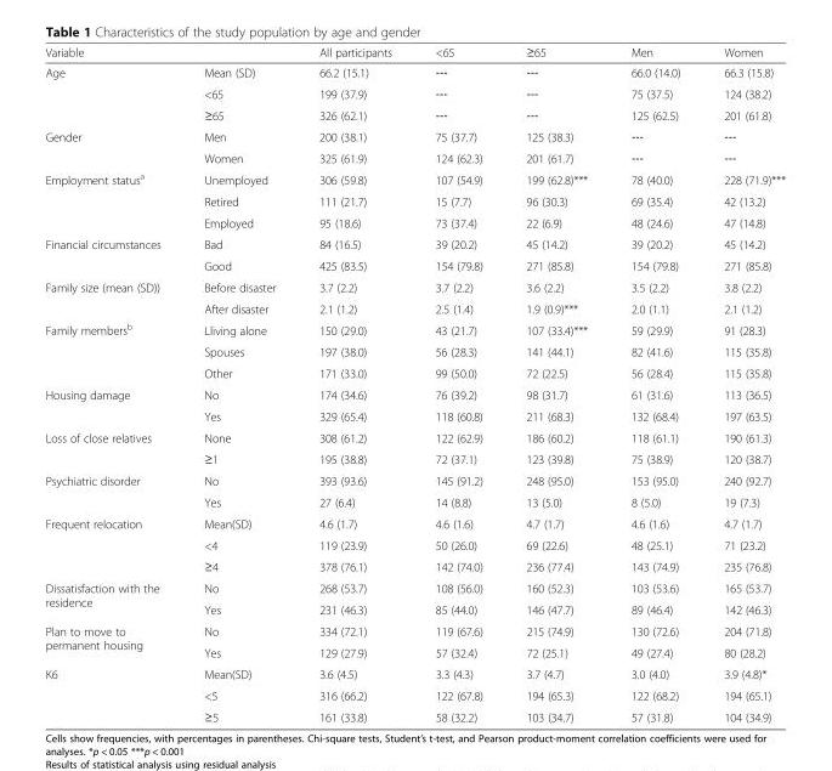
<table><thead><tr><td>Variable</td><td></td><td>All participants</td><td>&lt;65</td><td>≥65</td><td>Men</td><td>Women</td></tr></thead><tbody><tr><td rowspan="3">Age</td><td>Mean (SD)</td><td>66.2 (15.1)</td><td>‐‐‐</td><td>‐‐‐</td><td>66.0 (14.0)</td><td>66.3 (15.8)</td></tr><tr><td>&lt;65</td><td>199 (37.9)</td><td>‐‐‐</td><td>‐‐‐</td><td>75 (37.5)</td><td>124 (38.2)</td></tr><tr><td>≥65</td><td>326 (62.1)</td><td>‐‐‐</td><td>‐‐‐</td><td>125 (62.5)</td><td>201 (61.8)</td></tr><tr><td rowspan="2">Gender</td><td>Men</td><td>200 (38.1)</td><td>75 (37.7)</td><td>125 (38.3)</td><td>‐‐‐</td><td>‐‐‐</td></tr><tr><td>Women</td><td>325 (61.9)</td><td>124 (62.3)</td><td>201 (61.7)</td><td>‐‐‐</td><td>‐‐‐</td></tr><tr><td rowspan="3">Employment status<sup>a</sup></td><td>Unemployed</td><td>306 (59.8)</td><td>107 (54.9)</td><td>199 (62.8)***</td><td>78 (40.0)</td><td>228 (71.9)***</td></tr><tr><td>Retired</td><td>111 (21.7)</td><td>15 (7.7)</td><td>96 (30.3)</td><td>69 (35.4)</td><td>42 (13.2)</td></tr><tr><td>Employed</td><td>95 (18.6)</td><td>73 (37.4)</td><td>22 (6.9)</td><td>48 (24.6)</td><td>47 (14.8)</td></tr><tr><td rowspan="2">Financial circumstances</td><td>Bad</td><td>84 (16.5)</td><td>39 (20.2)</td><td>45 (14.2)</td><td>39 (20.2)</td><td>45 (14.2)</td></tr><tr><td>Good</td><td>425 (83.5)</td><td>154 (79.8)</td><td>271 (85.8)</td><td>154 (79.8)</td><td>271 (85.8)</td></tr><tr><td rowspan="2">Family size (mean (SD))</td><td>Before disaster</td><td>3.7 (2.2)</td><td>3.7 (2.2)</td><td>3.6 (2.2)</td><td>3.5 (2.2)</td><td>3.8 (2.2)</td></tr><tr><td>After disaster</td><td>2.1 (1.2)</td><td>2.5 (1.4)</td><td>1.9 (0.9)***</td><td>2.0 (1.1)</td><td>2.1 (1.2)</td></tr><tr><td rowspan="3">Family members<sup>b</sup></td><td>Lliving alone</td><td>150 (29.0)</td><td>43 (21.7)</td><td>107 (33.4)***</td><td>59 (29.9)</td><td>91 (28.3)</td></tr><tr><td>Spouses</td><td>197 (38.0)</td><td>56 (28.3)</td><td>141 (44.1)</td><td>82 (41.6)</td><td>115 (35.8)</td></tr><tr><td>Other</td><td>171 (33.0)</td><td>99 (50.0)</td><td>72 (22.5)</td><td>56 (28.4)</td><td>115 (35.8)</td></tr><tr><td rowspan="2">Housing damage</td><td>No</td><td>174 (34.6)</td><td>76 (39.2)</td><td>98 (31.7)</td><td>61 (31.6)</td><td>113 (36.5)</td></tr><tr><td>Yes</td><td>329 (65.4)</td><td>118 (60.8)</td><td>211 (68.3)</td><td>132 (68.4)</td><td>197 (63.5)</td></tr><tr><td rowspan="2">Loss of close relatives</td><td>None</td><td>308 (61.2)</td><td>122 (62.9)</td><td>186 (60.2)</td><td>118 (61.1)</td><td>190 (61.3)</td></tr><tr><td>≥1</td><td>195 (38.8)</td><td>72 (37.1)</td><td>123 (39.8)</td><td>75 (38.9)</td><td>120 (38.7)</td></tr><tr><td rowspan="2">Psychiatric disorder</td><td>No</td><td>393 (93.6)</td><td>145 (91.2)</td><td>248 (95.0)</td><td>153 (95.0)</td><td>240 (92.7)</td></tr><tr><td>Yes</td><td>27 (6.4)</td><td>14 (8.8)</td><td>13 (5.0)</td><td>8 (5.0)</td><td>19 (7.3)</td></tr><tr><td rowspan="3">Frequent relocation</td><td>Mean(SD)</td><td>4.6 (1.7)</td><td>4.6 (1.6)</td><td>4.7 (1.7)</td><td>4.6 (1.6)</td><td>4.7 (1.7)</td></tr><tr><td>&lt;4</td><td>119 (23.9)</td><td>50 (26.0)</td><td>69 (22.6)</td><td>48 (25.1)</td><td>71 (23.2)</td></tr><tr><td>≥4</td><td>378 (76.1)</td><td>142 (74.0)</td><td>236 (77.4)</td><td>143 (74.9)</td><td>235 (76.8)</td></tr><tr><td rowspan="2">Dissatisfaction with the residence</td><td>No</td><td>268 (53.7)</td><td>108 (56.0)</td><td>160 (52.3)</td><td>103 (53.6)</td><td>165 (53.7)</td></tr><tr><td>Yes</td><td>231 (46.3)</td><td>85 (44.0)</td><td>146 (47.7)</td><td>89 (46.4)</td><td>142 (46.3)</td></tr><tr><td rowspan="2">Plan to move to permanent housing</td><td>No</td><td>334 (72.1)</td><td>119 (67.6)</td><td>215 (74.9)</td><td>130 (72.6)</td><td>204 (71.8)</td></tr><tr><td>Yes</td><td>129 (27.9)</td><td>57 (32.4)</td><td>72 (25.1)</td><td>49 (27.4)</td><td>80 (28.2)</td></tr><tr><td rowspan="3">K6</td><td>Mean(SD)</td><td>3.6 (4.5)</td><td>3.3 (4.3)</td><td>3.7 (4.7)</td><td>3.0 (4.0)</td><td>3.9 (4.8)*</td></tr><tr><td>&lt;5</td><td>316 (66.2)</td><td>122 (67.8)</td><td>194 (65.3)</td><td>122 (68.2)</td><td>194 (65.1)</td></tr><tr><td>≥5</td><td>161 (33.8)</td><td>58 (32.2)</td><td>103 (34.7)</td><td>57 (31.8)</td><td>104 (34.9)</td></tr></tbody></table>